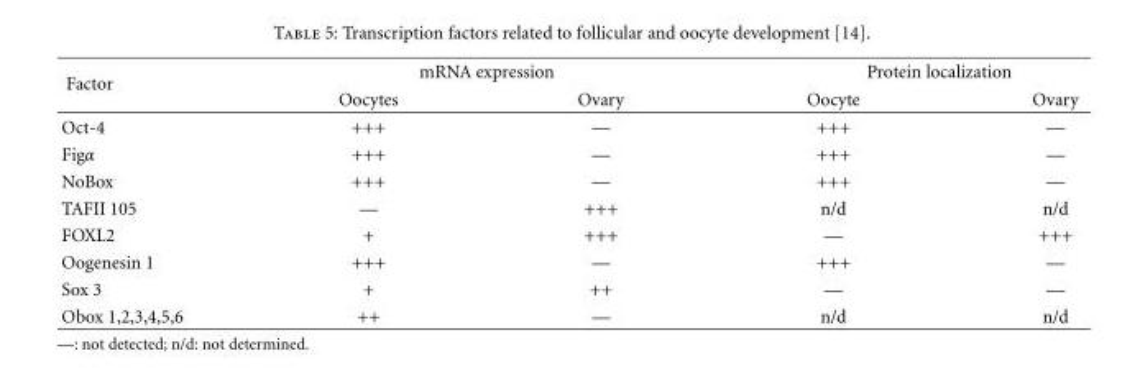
<table><thead><tr><td rowspan="2">Factor</td><td colspan="2">mRNA expression</td><td colspan="2">Protein localization</td></tr><tr><td>Oocytes</td><td>Ovary</td><td>Oocyte</td><td>Ovary</td></tr></thead><tbody><tr><td>Oct-4</td><td>+++</td><td>—</td><td>+++</td><td>—</td></tr><tr><td>Figα</td><td>+++</td><td>—</td><td>+++</td><td>—</td></tr><tr><td>NoBox</td><td>+++</td><td>—</td><td>+++</td><td>—</td></tr><tr><td>TAFII 105</td><td>—</td><td>+++</td><td>n/d</td><td>n/d</td></tr><tr><td>FOXL2</td><td>+</td><td>+++</td><td>—</td><td>+++</td></tr><tr><td>Oogenesin 1</td><td>+++</td><td>—</td><td>+++</td><td>—</td></tr><tr><td>Sox 3</td><td>+</td><td>++</td><td>—</td><td>—</td></tr><tr><td>Obox 1,2,3,4,5,6</td><td>++</td><td>—</td><td>n/d</td><td>n/d</td></tr></tbody></table>